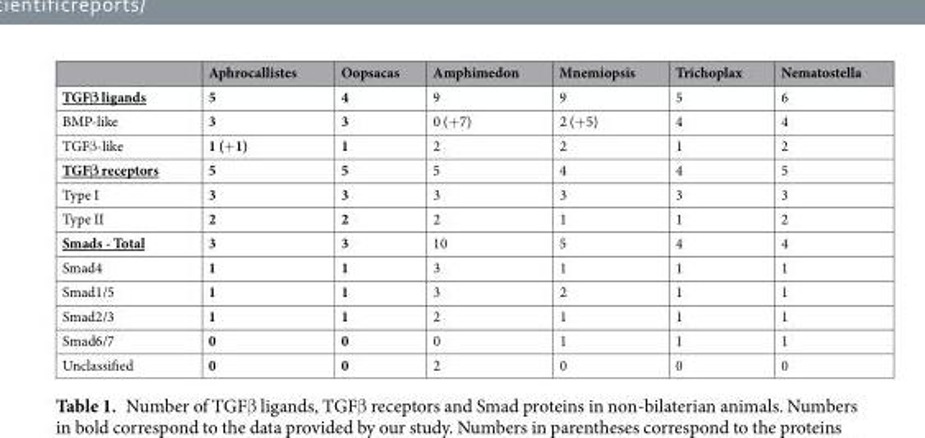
<table><thead><tr><td></td><td>Aphrocallistes</td><td>Oopsacas</td><td>Amphimedon</td><td>Mnemiopsis</td><td>Trichoplax</td><td>Nematostella</td></tr></thead><tbody><tr><td>TGFβ ligands</td><td>5</td><td>4</td><td>9</td><td>9</td><td>5</td><td>6</td></tr><tr><td>BMP-like</td><td>3</td><td>3</td><td>0 (+7)</td><td>2 (+5)</td><td>4</td><td>4</td></tr><tr><td>TGFβ-like</td><td>1 (+1)</td><td>1</td><td>2</td><td>2</td><td>1</td><td>2</td></tr><tr><td>TGFβ receptors</td><td>5</td><td>5</td><td>5</td><td>4</td><td>4</td><td>5</td></tr><tr><td>Type I</td><td>3</td><td>3</td><td>3</td><td>3</td><td>3</td><td>3</td></tr><tr><td>Type II</td><td>2</td><td>2</td><td>2</td><td>1</td><td>1</td><td>2</td></tr><tr><td>Smads - Total</td><td>3</td><td>3</td><td>10</td><td>5</td><td>4</td><td>4</td></tr><tr><td>Smad4</td><td>1</td><td>1</td><td>3</td><td>1</td><td>1</td><td>1</td></tr><tr><td>Smad1/5</td><td>1</td><td>1</td><td>3</td><td>2</td><td>1</td><td>1</td></tr><tr><td>Smad2/3</td><td>1</td><td>1</td><td>2</td><td>1</td><td>1</td><td>1</td></tr><tr><td>Smad6/7</td><td>0</td><td>0</td><td>0</td><td>1</td><td>1</td><td>1</td></tr><tr><td>Unclassified</td><td>0</td><td>0</td><td>2</td><td>0</td><td>0</td><td>0</td></tr></tbody></table>